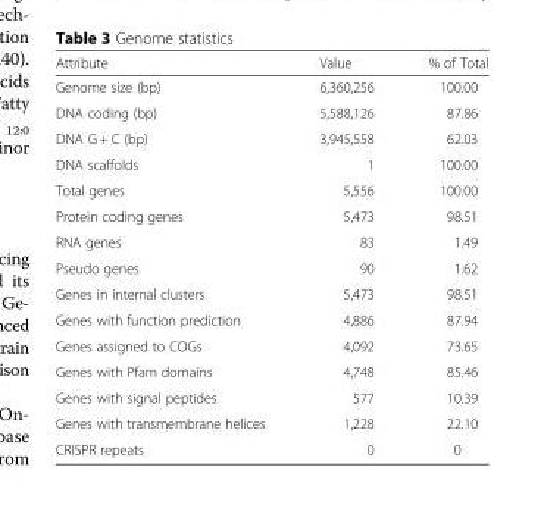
<table><thead><tr><td>Attribute</td><td>Value</td><td>% of Total</td></tr></thead><tbody><tr><td>Genome size (bp)</td><td>6,360,256</td><td>100.00</td></tr><tr><td>DNA coding (bp)</td><td>5,588,126</td><td>87.86</td></tr><tr><td>DNA G + C (bp)</td><td>3,945,558</td><td>62.03</td></tr><tr><td>DNA scaffolds</td><td>1</td><td>100.00</td></tr><tr><td>Total genes</td><td>5,556</td><td>100.00</td></tr><tr><td>Protein coding genes</td><td>5,473</td><td>98.51</td></tr><tr><td>RNA genes</td><td>83</td><td>1.49</td></tr><tr><td>Pseudo genes</td><td>90</td><td>1.62</td></tr><tr><td>Genes in internal clusters</td><td>5,473</td><td>98.51</td></tr><tr><td>Genes with function prediction</td><td>4,886</td><td>87.94</td></tr><tr><td>Genes assigned to COGs</td><td>4,092</td><td>73.65</td></tr><tr><td>Genes with Pfam domains</td><td>4,748</td><td>85.46</td></tr><tr><td>Genes with signal peptides</td><td>577</td><td>10.39</td></tr><tr><td>Genes with transmembrane helices</td><td>1,228</td><td>22.10</td></tr><tr><td>CRISPR repeats</td><td>0</td><td>0</td></tr></tbody></table>